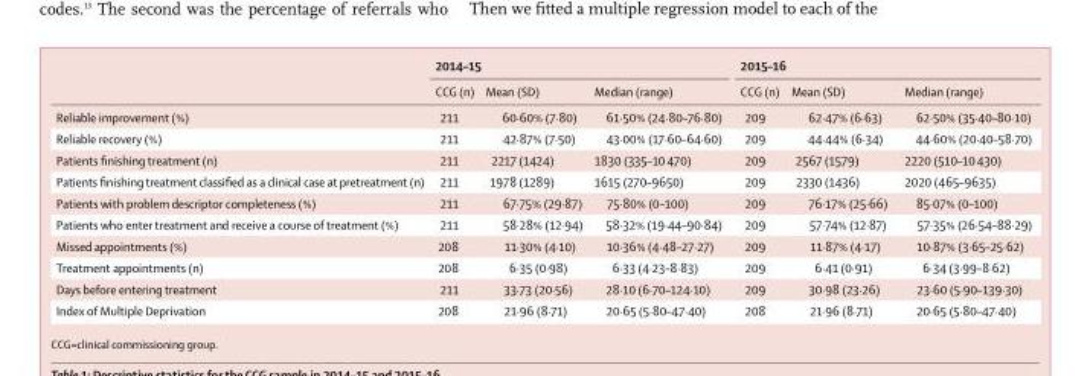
<table><thead><tr><td rowspan="2"></td><td colspan="3">2014–15</td><td colspan="3">2015–16</td></tr><tr><td>CCG (n)</td><td>Mean (SD)</td><td>Median (range)</td><td>CCG (n)</td><td>Mean (SD)</td><td>Median (range)</td></tr></thead><tbody><tr><td>Reliable improvement (%)</td><td>211</td><td>60·60% (7·80)</td><td>61·50% (24·80–76·80)</td><td>209</td><td>62·47% (6·63)</td><td>62·50% (35·40–80·10)</td></tr><tr><td>Reliable recovery (%)</td><td>211</td><td>42·87% (7·50)</td><td>43·00% (17·60–64·60)</td><td>209</td><td>44·44% (6·34)</td><td>44·60% (20·40–58·70)</td></tr><tr><td>Patients finishing treatment (n)</td><td>211</td><td>2217 (1424)</td><td>1830 (335–10 470)</td><td>209</td><td>2567 (1579)</td><td>2220 (510–10 430)</td></tr><tr><td>Patients finishing treatment classified as a clinical case at pretreatment (n)</td><td>211</td><td>1978 (1289)</td><td>1615 (270–9650)</td><td>209</td><td>2330 (1436)</td><td>2020 (465–9635)</td></tr><tr><td>Patients with problem descriptor completeness (%)</td><td>211</td><td>67·75% (29·87)</td><td>75·80% (0–100)</td><td>209</td><td>76·17% (25·66)</td><td>85·07% (0–100)</td></tr><tr><td>Patients who enter treatment and receive a course of treatment (%)</td><td>211</td><td>58·28% (12·94)</td><td>58·32% (19·44–90·84)</td><td>209</td><td>57·74% (12·87)</td><td>57·35% (26·54–88·29)</td></tr><tr><td>Missed appointments (%)</td><td>208</td><td>11·30% (4·10)</td><td>10·36% (4·48–27·27)</td><td>209</td><td>11·87% (4·17)</td><td>10·87% (3·65–25·62)</td></tr><tr><td>Treatment appointments (n)</td><td>208</td><td>6·35 (0·98)</td><td>6·33 (4·23–8·83)</td><td>209</td><td>6·41 (0·91)</td><td>6·34 (3·99–8·62)</td></tr><tr><td>Days before entering treatment</td><td>211</td><td>33·73 (20·56)</td><td>28·10 (6·70–124·10)</td><td>209</td><td>30·98 (23·26)</td><td>23·60 (5·90–139·30)</td></tr><tr><td>Index of Multiple Deprivation</td><td>208</td><td>21·96 (8·71)</td><td>20·65 (5·80–47·40)</td><td>208</td><td>21·96 (8·71)</td><td>20·65 (5·80–47·40)</td></tr></tbody></table>